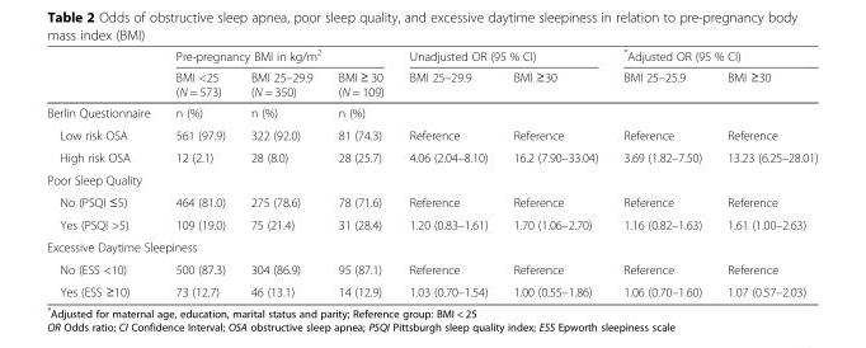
<table><thead><tr><td rowspan="2"></td><td colspan="3">Pre-pregnancy BMI in kg/m<sup>2</sup></td><td colspan="2">Unadjusted OR (95 % CI)</td><td colspan="2">*Adjusted OR (95 % CI)</td></tr><tr><td>BMI &lt;25 (N = 573)</td><td>BMI 25–29.9 (N = 350)</td><td>BMI ≥ 30 (N = 109)</td><td>BMI 25–29.9</td><td>BMI ≥30</td><td>BMI 25–25.9</td><td>BMI ≥30</td></tr></thead><tbody><tr><td>Berlin Questionnaire</td><td>n (%)</td><td>n (%)</td><td>n (%)</td><td></td><td></td><td></td><td></td></tr><tr><td>Low risk OSA</td><td>561 (97.9)</td><td>322 (92.0)</td><td>81 (74.3)</td><td>Reference</td><td>Reference</td><td>Reference</td><td>Reference</td></tr><tr><td>High risk OSA</td><td>12 (2.1)</td><td>28 (8.0)</td><td>28 (25.7)</td><td>4.06 (2.04–8.10)</td><td>16.2 (7.90–33.04)</td><td>3.69 (1.82–7.50)</td><td>13.23 (6.25–28.01)</td></tr><tr><td colspan="8">Poor Sleep Quality</td></tr><tr><td>No (PSQI ≤5)</td><td>464 (81.0)</td><td>275 (78.6)</td><td>78 (71.6)</td><td>Reference</td><td>Reference</td><td>Reference</td><td>Reference</td></tr><tr><td>Yes (PSQI &gt;5)</td><td>109 (19.0)</td><td>75 (21.4)</td><td>31 (28.4)</td><td>1.20 (0.83–1.61)</td><td>1.70 (1.06–2.70)</td><td>1.16 (0.82–1.63)</td><td>1.61 (1.00–2.63)</td></tr><tr><td colspan="8">Excessive Daytime Sleepiness</td></tr><tr><td>No (ESS &lt;10)</td><td>500 (87.3)</td><td>304 (86.9)</td><td>95 (87.1)</td><td>Reference</td><td>Reference</td><td>Reference</td><td>Reference</td></tr><tr><td>Yes (ESS ≥10)</td><td>73 (12.7)</td><td>46 (13.1)</td><td>14 (12.9)</td><td>1.03 (0.70–1.54)</td><td>1.00 (0.55–1.86)</td><td>1.06 (0.70–1.60)</td><td>1.07 (0.57–2.03)</td></tr></tbody></table>